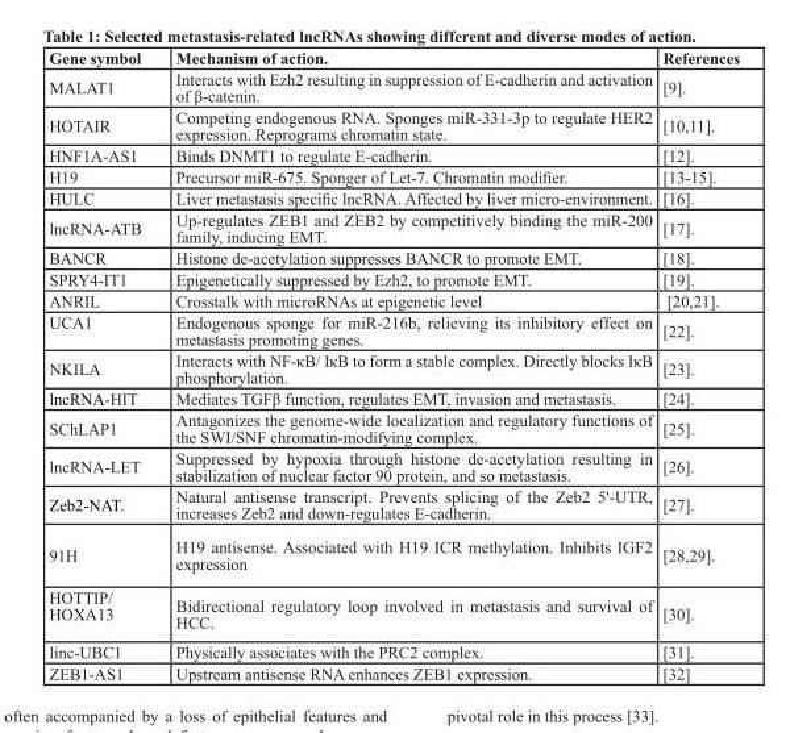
<table><thead><tr><td>Gene symbol</td><td>Mechanism of action.</td><td>References</td></tr></thead><tbody><tr><td>MALAT1</td><td>Interacts with Ezh2 resulting in suppression of E-cadherin and activation of β-catenin.</td><td>[9].</td></tr><tr><td>HOTAIR</td><td>Competing endogenous RNA. Sponges miR-331-3p to regulate HER2 expression. Reprograms chromatin state.</td><td>[10,11].</td></tr><tr><td>HNF1A-AS1</td><td>Binds DNMT1 to regulate E-cadherin.</td><td>[12].</td></tr><tr><td>H19</td><td>Precursor miR-675. Sponger of Let-7. Chromatin modifier.</td><td>[13-15].</td></tr><tr><td>HULC</td><td>Liver metastasis specific lncRNA. Affected by liver micro-environment.</td><td>[16].</td></tr><tr><td>lncRNA-ATB</td><td>Up-regulates ZEB1 and ZEB2 by competitively binding the miR-200 family, inducing EMT.</td><td>[17].</td></tr><tr><td>BANCR</td><td>Histone de-acetylation suppresses BANCR to promote EMT.</td><td>[18].</td></tr><tr><td>SPRY4-IT1</td><td>Epigenetically suppressed by Ezh2, to promote EMT.</td><td>[19].</td></tr><tr><td>ANRIL</td><td>Crosstalk with microRNAs at epigenetic level</td><td>[20,21].</td></tr><tr><td>UCA1</td><td>Endogenous sponge for miR-216b, relieving its inhibitory effect on metastasis promoting genes.</td><td>[22].</td></tr><tr><td>NKILA</td><td>Interacts with NF-κB/ IκB to form a stable complex. Directly blocks IκB phosphorylation.</td><td>[23].</td></tr><tr><td>lncRNA-HIT</td><td>Mediates TGFβ function, regulates EMT, invasion and metastasis.</td><td>[24].</td></tr><tr><td>SChLAP1</td><td>Antagonizes the genome-wide localization and regulatory functions of the SWI/SNF chromatin-modifying complex.</td><td>[25].</td></tr><tr><td>lncRNA-LET</td><td>Suppressed by hypoxia through histone de-acetylation resulting in stabilization of nuclear factor 90 protein, and so metastasis.</td><td>[26].</td></tr><tr><td>Zeb2-NAT.</td><td>Natural antisense transcript. Prevents splicing of the Zeb2 5&#x27;-UTR, increases Zeb2 and down-regulates E-cadherin.</td><td>[27].</td></tr><tr><td>91H</td><td>H19 antisense. Associated with H19 ICR methylation. Inhibits IGF2 expression</td><td>[28,29].</td></tr><tr><td>HOTTIP/ HOXA13</td><td>Bidirectional regulatory loop involved in metastasis and survival of HCC.</td><td>[30].</td></tr><tr><td>linc-UBC1</td><td>Physically associates with the PRC2 complex.</td><td>[31].</td></tr><tr><td>ZEB1-AS1</td><td>Upstream antisense RNA enhances ZEB1 expression.</td><td>[32]</td></tr></tbody></table>